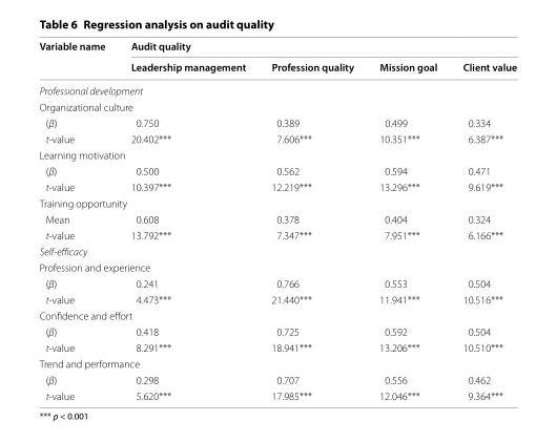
<table><thead><tr><td rowspan="2">Variable name</td><td colspan="4">Audit quality</td></tr><tr><td>Leadership management</td><td>Profession quality</td><td>Mission goal</td><td>Client value</td></tr></thead><tbody><tr><td colspan="5">Professional development</td></tr><tr><td colspan="5">Organizational culture</td></tr><tr><td>(β)</td><td>0.750</td><td>0.389</td><td>0.499</td><td>0.334</td></tr><tr><td>t‑value</td><td>20.402***</td><td>7.606***</td><td>10.351***</td><td>6.387***</td></tr><tr><td colspan="5">Learning motivation</td></tr><tr><td>(β)</td><td>0.500</td><td>0.562</td><td>0.594</td><td>0.471</td></tr><tr><td>t‑value</td><td>10.397***</td><td>12.219***</td><td>13.296***</td><td>9.619***</td></tr><tr><td colspan="5">Training opportunity</td></tr><tr><td>Mean</td><td>0.608</td><td>0.378</td><td>0.404</td><td>0.324</td></tr><tr><td>t‑value</td><td>13.792***</td><td>7.347***</td><td>7.951***</td><td>6.166***</td></tr><tr><td colspan="5">Self‑efficacy</td></tr><tr><td colspan="5">Profession and experience</td></tr><tr><td>(β)</td><td>0.241</td><td>0.766</td><td>0.553</td><td>0.504</td></tr><tr><td>t‑value</td><td>4.473***</td><td>21.440***</td><td>11.941***</td><td>10.516***</td></tr><tr><td colspan="5">Confidence and effort</td></tr><tr><td>(β)</td><td>0.418</td><td>0.725</td><td>0.592</td><td>0.504</td></tr><tr><td>t‑value</td><td>8.291***</td><td>18.941***</td><td>13.206***</td><td>10.510***</td></tr><tr><td colspan="5">Trend and performance</td></tr><tr><td>(β)</td><td>0.298</td><td>0.707</td><td>0.556</td><td>0.462</td></tr><tr><td>t‑value</td><td>5.620***</td><td>17.985***</td><td>12.046***</td><td>9.364***</td></tr></tbody></table>